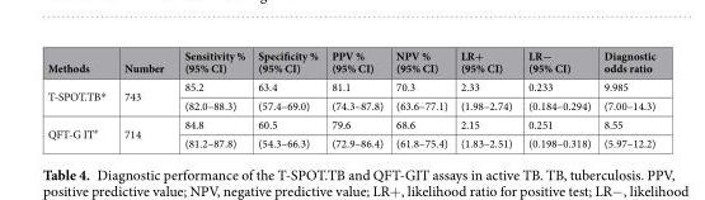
<table><thead><tr><td>Methods</td><td>Number</td><td>Sensitivity % (95% CI)</td><td>Specificity % (95% CI)</td><td>PPV % (95% CI)</td><td>NPV % (95% CI)</td><td>LR+ (95% CI)</td><td>LR− (95% CI)</td><td>Diagnostic odds ratio</td></tr></thead><tbody><tr><td rowspan="2">T-SPOT.TB*</td><td rowspan="2">743</td><td>85.2</td><td>63.4</td><td>81.1</td><td>70.3</td><td>2.33</td><td>0.233</td><td>9.985</td></tr><tr><td>(82.0–88.3)</td><td>(57.4–69.0)</td><td>(74.3–87.8)</td><td>(63.6–77.1)</td><td>(1.98–2.74)</td><td>(0.184–0.294)</td><td>(7.00–14.3)</td></tr><tr><td rowspan="2">QFT-G IT<sup>#</sup></td><td rowspan="2">714</td><td>84.8</td><td>60.5</td><td>79.6</td><td>68.6</td><td>2.15</td><td>0.251</td><td>8.55</td></tr><tr><td>(81.2–87.8)</td><td>(54.3–66.3)</td><td>(72.9–86.4)</td><td>(61.8–75.4)</td><td>(1.83–2.51)</td><td>(0.198–0.318)</td><td>(5.97–12.2)</td></tr></tbody></table>